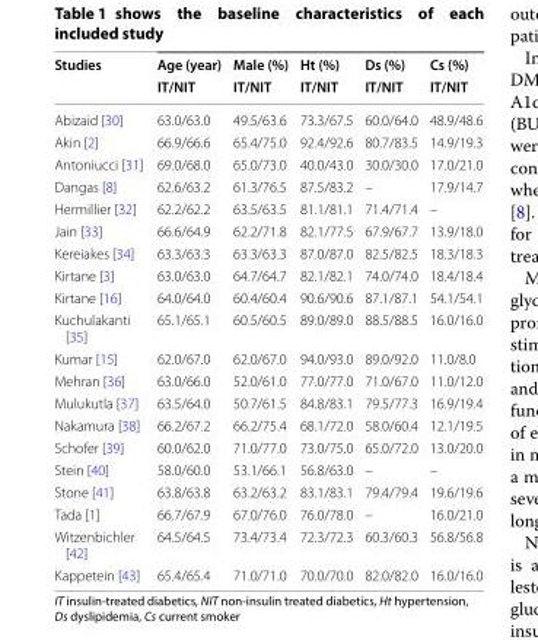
<table><thead><tr><td rowspan="2">Studies</td><td rowspan="2">Age (year) IT/NIT</td><td rowspan="2">Male (%) IT/NIT</td><td rowspan="2">Ht (%) IT/NIT</td><td rowspan="2">Ds (%) IT/NIT</td><td rowspan="2">Cs (%) IT/NIT</td></tr><tr></tr></thead><tbody><tr><td>Abizaid [30]</td><td>63.0/63.0</td><td>49.5/63.6</td><td>73.3/67.5</td><td>60.0/64.0</td><td>48.9/48.6</td></tr><tr><td>Akin [2]</td><td>66.9/66.6</td><td>65.4/75.0</td><td>92.4/92.6</td><td>80.7/83.5</td><td>14.9/19.3</td></tr><tr><td>Antoniucci [31]</td><td>69.0/68.0</td><td>65.0/73.0</td><td>40.0/43.0</td><td>30.0/30.0</td><td>17.0/21.0</td></tr><tr><td>Dangas [8]</td><td>62.6/63.2</td><td>61.3/76.5</td><td>87.5/83.2</td><td>–</td><td>17.9/14.7</td></tr><tr><td>Hermillier [32]</td><td>62.2/62.2</td><td>63.5/63.5</td><td>81.1/81.1</td><td>71.4/71.4</td><td>–</td></tr><tr><td>Jain [33]</td><td>66.6/64.9</td><td>62.2/71.8</td><td>82.1/77.5</td><td>67.9/67.7</td><td>13.9/18.0</td></tr><tr><td>Kereiakes [34]</td><td>63.3/63.3</td><td>63.3/63.3</td><td>87.0/87.0</td><td>82.5/82.5</td><td>18.3/18.3</td></tr><tr><td>Kirtane [3]</td><td>63.0/63.0</td><td>64.7/64.7</td><td>82.1/82.1</td><td>74.0/74.0</td><td>18.4/18.4</td></tr><tr><td>Kirtane [16]</td><td>64.0/64.0</td><td>60.4/60.4</td><td>90.6/90.6</td><td>87.1/87.1</td><td>54.1/54.1</td></tr><tr><td>Kuchulakanti [35]</td><td>65.1/65.1</td><td>60.5/60.5</td><td>89.0/89.0</td><td>88.5/88.5</td><td>16.0/16.0</td></tr><tr><td>Kumar [15]</td><td>62.0/67.0</td><td>62.0/67.0</td><td>94.0/93.0</td><td>89.0/92.0</td><td>11.0/8.0</td></tr><tr><td>Mehran [36]</td><td>63.0/66.0</td><td>52.0/61.0</td><td>77.0/77.0</td><td>71.0/67.0</td><td>11.0/12.0</td></tr><tr><td>Mulukutla [37]</td><td>63.5/64.0</td><td>50.7/61.5</td><td>84.8/83.1</td><td>79.5/77.3</td><td>16.9/19.4</td></tr><tr><td>Nakamura [38]</td><td>66.2/67.2</td><td>66.2/75.4</td><td>68.1/72.0</td><td>58.0/60.4</td><td>12.1/19.5</td></tr><tr><td>Schofer [39]</td><td>60.0/62.0</td><td>71.0/77.0</td><td>73.0/75.0</td><td>65.0/72.0</td><td>13.0/20.0</td></tr><tr><td>Stein [40]</td><td>58.0/60.0</td><td>53.1/66.1</td><td>56.8/63.0</td><td>–</td><td>–</td></tr><tr><td>Stone [41]</td><td>63.8/63.8</td><td>63.2/63.2</td><td>83.1/83.1</td><td>79.4/79.4</td><td>19.6/19.6</td></tr><tr><td>Tada [1]</td><td>66.7/67.9</td><td>67.0/76.0</td><td>76.0/78.0</td><td>–</td><td>16.0/21.0</td></tr><tr><td>Witzenbichler [42]</td><td>64.5/64.5</td><td>73.4/73.4</td><td>72.3/72.3</td><td>60.3/60.3</td><td>56.8/56.8</td></tr><tr><td>Kappetein [43]</td><td>65.4/65.4</td><td>71.0/71.0</td><td>70.0/70.0</td><td>82.0/82.0</td><td>16.0/16.0</td></tr></tbody></table>